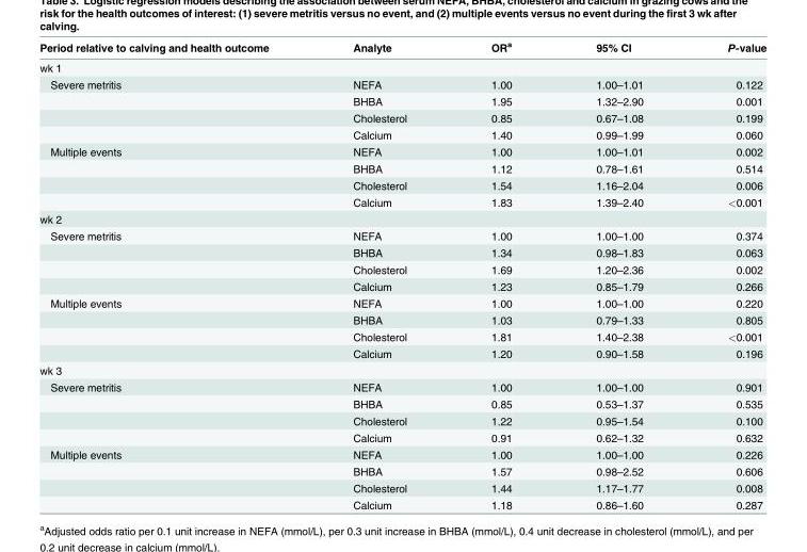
<table><thead><tr><td>Period relative to calving and health outcome</td><td>Analyte</td><td>OR<sup>a</sup></td><td>95% CI</td><td>P-value</td></tr></thead><tbody><tr><td colspan="5">wk 1</td></tr><tr><td rowspan="4">Severe metritis</td><td>NEFA</td><td>1.00</td><td>1.00–1.01</td><td>0.122</td></tr><tr><td>BHBA</td><td>1.95</td><td>1.32–2.90</td><td>0.001</td></tr><tr><td>Cholesterol</td><td>0.85</td><td>0.67–1.08</td><td>0.199</td></tr><tr><td>Calcium</td><td>1.40</td><td>0.99–1.99</td><td>0.060</td></tr><tr><td rowspan="4">Multiple events</td><td>NEFA</td><td>1.00</td><td>1.00–1.01</td><td>0.002</td></tr><tr><td>BHBA</td><td>1.12</td><td>0.78–1.61</td><td>0.514</td></tr><tr><td>Cholesterol</td><td>1.54</td><td>1.16–2.04</td><td>0.006</td></tr><tr><td>Calcium</td><td>1.83</td><td>1.39–2.40</td><td>&lt;0.001</td></tr><tr><td colspan="5">wk 2</td></tr><tr><td rowspan="4">Severe metritis</td><td>NEFA</td><td>1.00</td><td>1.00–1.00</td><td>0.374</td></tr><tr><td>BHBA</td><td>1.34</td><td>0.98–1.83</td><td>0.063</td></tr><tr><td>Cholesterol</td><td>1.69</td><td>1.20–2.36</td><td>0.002</td></tr><tr><td>Calcium</td><td>1.23</td><td>0.85–1.79</td><td>0.266</td></tr><tr><td rowspan="4">Multiple events</td><td>NEFA</td><td>1.00</td><td>1.00–1.00</td><td>0.220</td></tr><tr><td>BHBA</td><td>1.03</td><td>0.79–1.33</td><td>0.805</td></tr><tr><td>Cholesterol</td><td>1.81</td><td>1.40–2.38</td><td>&lt;0.001</td></tr><tr><td>Calcium</td><td>1.20</td><td>0.90–1.58</td><td>0.196</td></tr><tr><td colspan="5">wk 3</td></tr><tr><td rowspan="4">Severe metritis</td><td>NEFA</td><td>1.00</td><td>1.00–1.00</td><td>0.901</td></tr><tr><td>BHBA</td><td>0.85</td><td>0.53–1.37</td><td>0.535</td></tr><tr><td>Cholesterol</td><td>1.22</td><td>0.95–1.54</td><td>0.100</td></tr><tr><td>Calcium</td><td>0.91</td><td>0.62–1.32</td><td>0.632</td></tr><tr><td rowspan="4">Multiple events</td><td>NEFA</td><td>1.00</td><td>1.00–1.00</td><td>0.226</td></tr><tr><td>BHBA</td><td>1.57</td><td>0.98–2.52</td><td>0.606</td></tr><tr><td>Cholesterol</td><td>1.44</td><td>1.17–1.77</td><td>0.008</td></tr><tr><td>Calcium</td><td>1.18</td><td>0.86–1.60</td><td>0.287</td></tr></tbody></table>